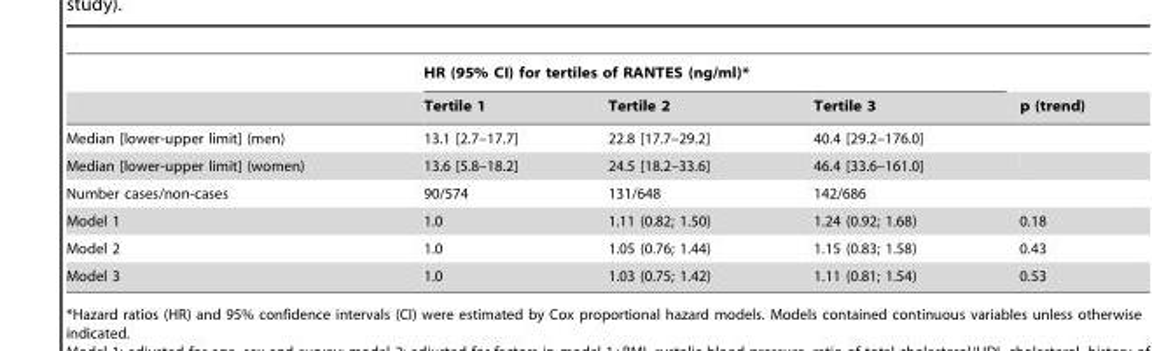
<table><thead><tr><td rowspan="2"></td><td colspan="3">HR (95% CI) for tertiles of RANTES (ng/ml)*</td><td rowspan="2">p (trend)</td></tr><tr><td>Tertile 1</td><td>Tertile 2</td><td>Tertile 3</td></tr></thead><tbody><tr><td>Median [lower-upper limit] (men)</td><td>13.1 [2.7–17.7]</td><td>22.8 [17.7–29.2]</td><td>40.4 [29.2–176.0]</td><td></td></tr><tr><td>Median [lower-upper limit] (women)</td><td>13.6 [5.8–18.2]</td><td>24.5 [18.2–33.6]</td><td>46.4 [33.6–161.0]</td><td></td></tr><tr><td>Number cases/non-cases</td><td>90/574</td><td>131/648</td><td>142/686</td><td></td></tr><tr><td>Model 1</td><td>1.0</td><td>1.11 (0.82; 1.50)</td><td>1.24 (0.92; 1.68)</td><td>0.18</td></tr><tr><td>Model 2</td><td>1.0</td><td>1.05 (0.76; 1.44)</td><td>1.15 (0.83; 1.58)</td><td>0.43</td></tr><tr><td>Model 3</td><td>1.0</td><td>1.03 (0.75; 1.42)</td><td>1.11 (0.81; 1.54)</td><td>0.53</td></tr></tbody></table>